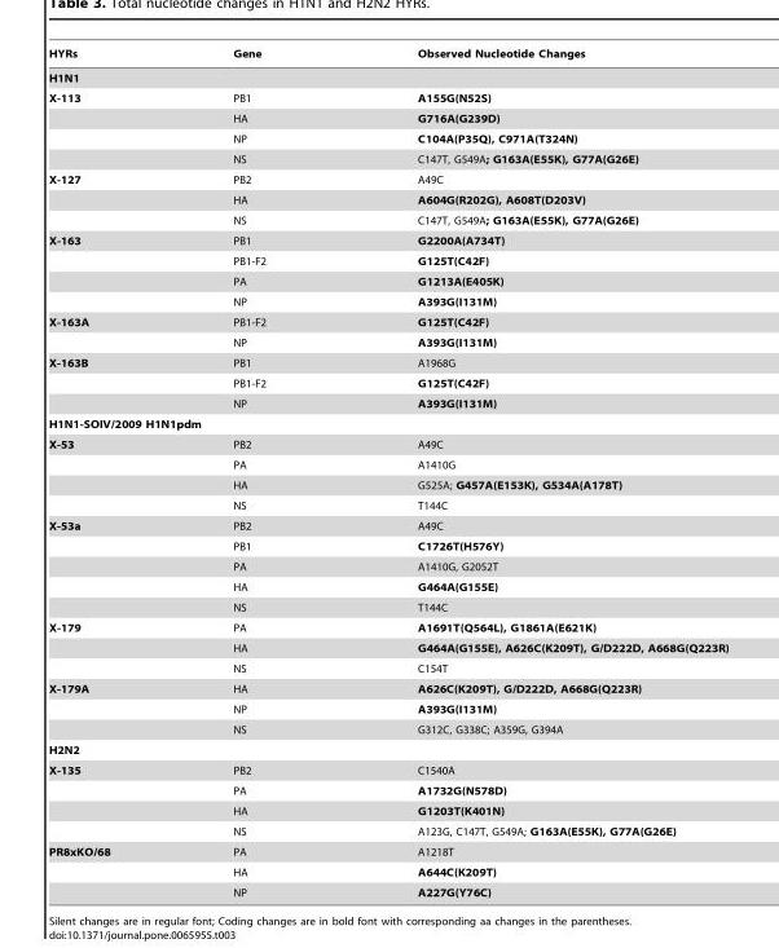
<table><thead><tr><td>HYRs</td><td>Gene</td><td>Observed Nucleotide Changes</td></tr></thead><tbody><tr><td colspan="3">H1N1</td></tr><tr><td rowspan="4">X-113</td><td>PB1</td><td>A155G(N52S)</td></tr><tr><td>HA</td><td>G716A(G239D)</td></tr><tr><td>NP</td><td>C104A(P35Q), C971A(T324N)</td></tr><tr><td>NS</td><td>C147T, G549A; G163A(E55K), G77A(G26E)</td></tr><tr><td rowspan="3">X-127</td><td>PB2</td><td>A49C</td></tr><tr><td>HA</td><td>A604G(R202G), A608T(D203V)</td></tr><tr><td>NS</td><td>C147T, G549A; G163A(E55K), G77A(G26E)</td></tr><tr><td rowspan="4">X-163</td><td>PB1</td><td>G2200A(A734T)</td></tr><tr><td>PB1-F2</td><td>G125T(C42F)</td></tr><tr><td>PA</td><td>G1213A(E405K)</td></tr><tr><td>NP</td><td>A393G(I131M)</td></tr><tr><td rowspan="2">X-163A</td><td>PB1-F2</td><td>G125T(C42F)</td></tr><tr><td>NP</td><td>A393G(I131M)</td></tr><tr><td rowspan="3">X-163B</td><td>PB1</td><td>A1968G</td></tr><tr><td>PB1-F2</td><td>G125T(C42F)</td></tr><tr><td>NP</td><td>A393G(I131M)</td></tr><tr><td colspan="3">H1N1-SOIV/2009 H1N1pdm</td></tr><tr><td rowspan="4">X-53</td><td>PB2</td><td>A49C</td></tr><tr><td>PA</td><td>A1410G</td></tr><tr><td>HA</td><td>G525A; G457A(E153K), G534A(A178T)</td></tr><tr><td>NS</td><td>T144C</td></tr><tr><td rowspan="5">X-53a</td><td>PB2</td><td>A49C</td></tr><tr><td>PB1</td><td>C1726T(H576Y)</td></tr><tr><td>PA</td><td>A1410G, G2052T</td></tr><tr><td>HA</td><td>G464A(G155E)</td></tr><tr><td>NS</td><td>T144C</td></tr><tr><td rowspan="3">X-179</td><td>PA</td><td>A1691T(Q564L), G1861A(E621K)</td></tr><tr><td>HA</td><td>G464A(G155E), A626C(K209T), G/D222D, A668G(Q223R)</td></tr><tr><td>NS</td><td>C154T</td></tr><tr><td rowspan="3">X-179A</td><td>HA</td><td>A626C(K209T), G/D222D, A668G(Q223R)</td></tr><tr><td>NP</td><td>A393G(I131M)</td></tr><tr><td>NS</td><td>G312C, G338C; A359G, G394A</td></tr><tr><td colspan="3">H2N2</td></tr><tr><td rowspan="4">X-135</td><td>PB2</td><td>C1540A</td></tr><tr><td>PA</td><td>A1732G(N578D)</td></tr><tr><td>HA</td><td>G1203T(K401N)</td></tr><tr><td>NS</td><td>A123G, C147T, G549A; G163A(E55K), G77A(G26E)</td></tr><tr><td rowspan="3">PR8xKO/68</td><td>PA</td><td>A1218T</td></tr><tr><td>HA</td><td>A644C(K209T)</td></tr><tr><td>NP</td><td>A227G(Y76C)</td></tr></tbody></table>